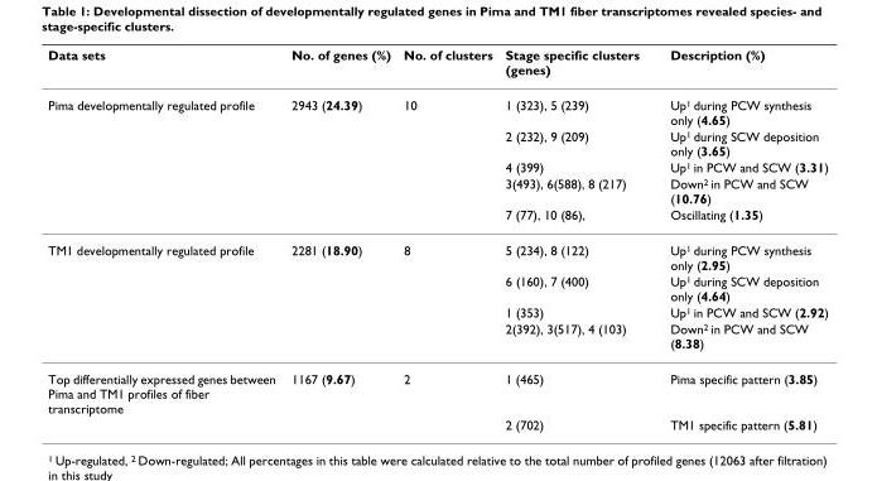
<table><thead><tr><td>Data sets</td><td>No. of genes (%)</td><td>No. of clusters</td><td>Stage specific clusters (genes)</td><td>Description (%)</td></tr></thead><tbody><tr><td rowspan="5">Pima developmentally regulated profile</td><td>2943 (24.39)</td><td>10</td><td>1 (323), 5 (239)</td><td>Up<sup>1</sup> during PCW synthesis only (4.65)</td></tr><tr><td></td><td></td><td>2 (232), 9 (209)</td><td>Up<sup>1</sup> during SCW deposition only (3.65)</td></tr><tr><td></td><td></td><td>4 (399)</td><td>Up<sup>1</sup> in PCW and SCW (3.31)</td></tr><tr><td></td><td></td><td>3(493), 6(588), 8 (217)</td><td>Down<sup>2</sup> in PCW and SCW (10.76)</td></tr><tr><td></td><td></td><td>7 (77), 10 (86),</td><td>Oscillating (1.35)</td></tr><tr><td rowspan="4">TM1 developmentally regulated profile</td><td>2281 (18.90)</td><td>8</td><td>5 (234), 8 (122)</td><td>Up<sup>1</sup> during PCW synthesis only (2.95)</td></tr><tr><td></td><td></td><td>6 (160), 7 (400)</td><td>Up<sup>1</sup> during SCW deposition only (4.64)</td></tr><tr><td></td><td></td><td>1 (353)</td><td>Up<sup>1</sup> in PCW and SCW (2.92)</td></tr><tr><td></td><td></td><td>2(392), 3(517), 4 (103)</td><td>Down<sup>2</sup> in PCW and SCW (8.38)</td></tr><tr><td rowspan="2">Top differentially expressed genes between Pima and TM1 profiles of fiber transcriptome</td><td>1167 (9.67)</td><td>2</td><td>1 (465)</td><td>Pima specific pattern (3.85)</td></tr><tr><td></td><td></td><td>2 (702)</td><td>TM1 specific pattern (5.81)</td></tr></tbody></table>